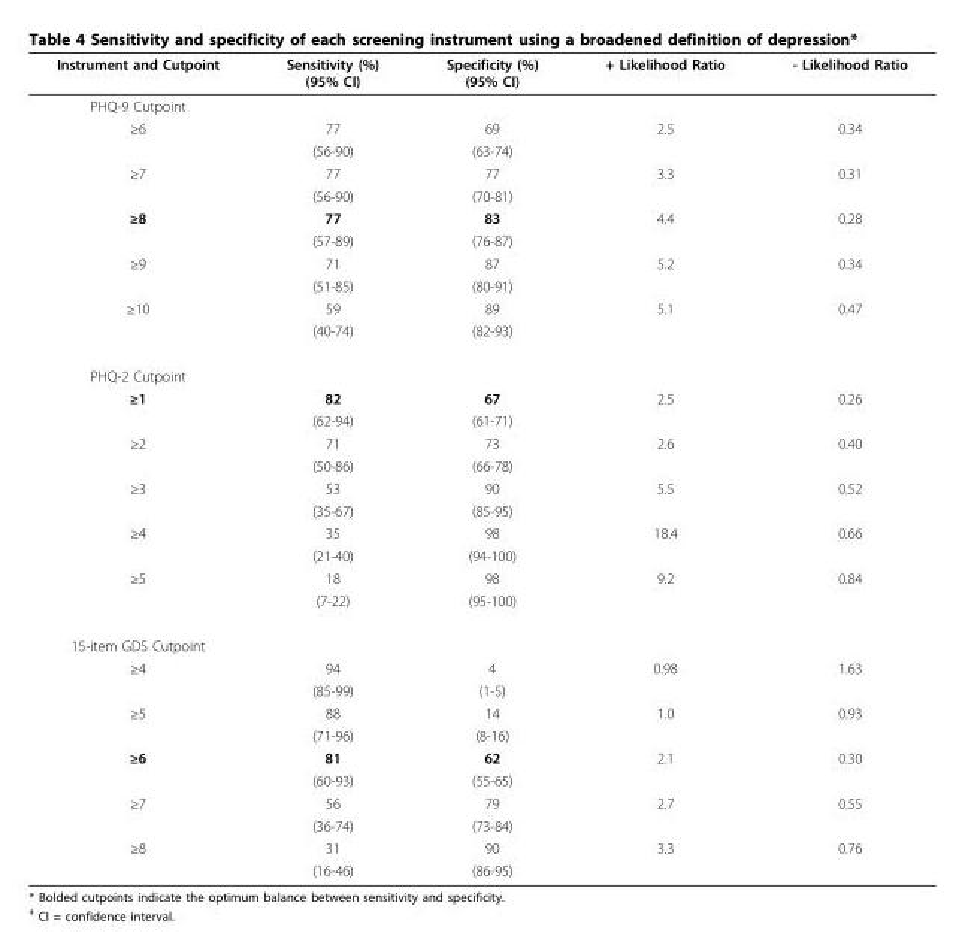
<table><thead><tr><td>Instrument and Cutpoint</td><td>Sensitivity (%) (95% CI)</td><td>Specificity (%) (95% CI)</td><td>+ Likelihood Ratio</td><td>- Likelihood Ratio</td></tr></thead><tbody><tr><td colspan="5">PHQ-9 Cutpoint</td></tr><tr><td rowspan="2">≥6</td><td>77</td><td>69</td><td>2.5</td><td>0.34</td></tr><tr><td>(56-90)</td><td>(63-74)</td><td></td><td></td></tr><tr><td rowspan="2">≥7</td><td>77</td><td>77</td><td>3.3</td><td>0.31</td></tr><tr><td>(56-90)</td><td>(70-81)</td><td></td><td></td></tr><tr><td rowspan="2">≥8</td><td>77</td><td>83</td><td>4.4</td><td>0.28</td></tr><tr><td>(57-89)</td><td>(76-87)</td><td></td><td></td></tr><tr><td rowspan="2">≥9</td><td>71</td><td>87</td><td>5.2</td><td>0.34</td></tr><tr><td>(51-85)</td><td>(80-91)</td><td></td><td></td></tr><tr><td rowspan="2">≥10</td><td>59</td><td>89</td><td>5.1</td><td>0.47</td></tr><tr><td>(40-74)</td><td>(82-93)</td><td></td><td></td></tr><tr><td colspan="5">PHQ-2 Cutpoint</td></tr><tr><td rowspan="2">≥1</td><td>82</td><td>67</td><td>2.5</td><td>0.26</td></tr><tr><td>(62-94)</td><td>(61-71)</td><td></td><td></td></tr><tr><td rowspan="2">≥2</td><td>71</td><td>73</td><td>2.6</td><td>0.40</td></tr><tr><td>(50-86)</td><td>(66-78)</td><td></td><td></td></tr><tr><td rowspan="2">≥3</td><td>53</td><td>90</td><td>5.5</td><td>0.52</td></tr><tr><td>(35-67)</td><td>(85-95)</td><td></td><td></td></tr><tr><td rowspan="2">≥4</td><td>35</td><td>98</td><td>18.4</td><td>0.66</td></tr><tr><td>(21-40)</td><td>(94-100)</td><td></td><td></td></tr><tr><td rowspan="2">≥5</td><td>18</td><td>98</td><td>9.2</td><td>0.84</td></tr><tr><td>(7-22)</td><td>(95-100)</td><td></td><td></td></tr><tr><td colspan="5">15-item GDS Cutpoint</td></tr><tr><td rowspan="2">≥4</td><td>94</td><td>4</td><td>0.98</td><td>1.63</td></tr><tr><td>(85-99)</td><td>(1-5)</td><td></td><td></td></tr><tr><td rowspan="2">≥5</td><td>88</td><td>14</td><td>1.0</td><td>0.93</td></tr><tr><td>(71-96)</td><td>(8-16)</td><td></td><td></td></tr><tr><td rowspan="2">≥6</td><td>81</td><td>62</td><td>2.1</td><td>0.30</td></tr><tr><td>(60-93)</td><td>(55-65)</td><td></td><td></td></tr><tr><td rowspan="2">≥7</td><td>56</td><td>79</td><td>2.7</td><td>0.55</td></tr><tr><td>(36-74)</td><td>(73-84)</td><td></td><td></td></tr><tr><td rowspan="2">≥8</td><td>31</td><td>90</td><td>3.3</td><td>0.76</td></tr><tr><td>(16-46)</td><td>(86-95)</td><td></td><td></td></tr></tbody></table>